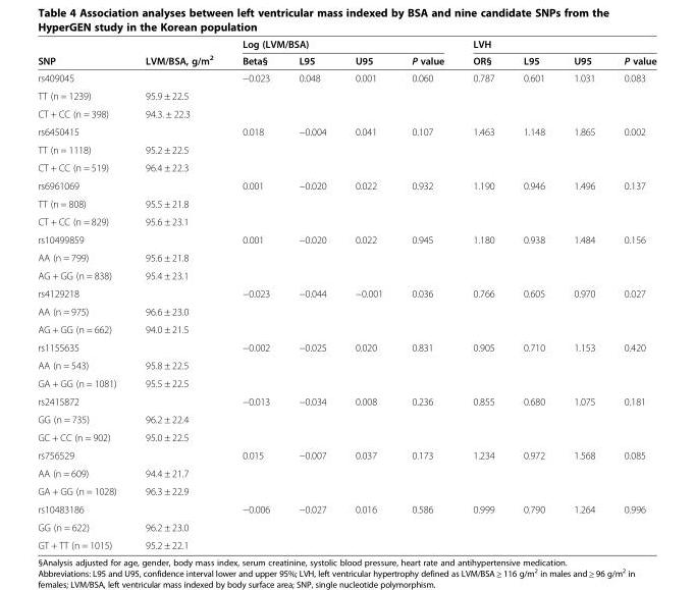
<table><thead><tr><td rowspan="2">SNP</td><td rowspan="2">LVM/BSA, g/m<sup>2</sup></td><td colspan="4">Log (LVM/BSA)</td><td colspan="4">LVH</td></tr><tr><td>Beta§</td><td>L95</td><td>U95</td><td>P value</td><td>OR§</td><td>L95</td><td>U95</td><td>P value</td></tr></thead><tbody><tr><td>rs409045</td><td></td><td>−0.023</td><td>0.048</td><td>0.001</td><td>0.060</td><td>0.787</td><td>0.601</td><td>1.031</td><td>0.083</td></tr><tr><td>TT (n = 1239)</td><td>95.9 ± 22.5</td><td></td><td></td><td></td><td></td><td></td><td></td><td></td><td></td></tr><tr><td>CT + CC (n = 398)</td><td>94.3. ± 22.3</td><td></td><td></td><td></td><td></td><td></td><td></td><td></td><td></td></tr><tr><td>rs6450415</td><td></td><td>0.018</td><td>−0.004</td><td>0.041</td><td>0.107</td><td>1.463</td><td>1.148</td><td>1.865</td><td>0.002</td></tr><tr><td>TT (n = 1118)</td><td>95.2 ± 22.5</td><td></td><td></td><td></td><td></td><td></td><td></td><td></td><td></td></tr><tr><td>CT + CC (n = 519)</td><td>96.4 ± 22.3</td><td></td><td></td><td></td><td></td><td></td><td></td><td></td><td></td></tr><tr><td>rs6961069</td><td></td><td>0.001</td><td>−0.020</td><td>0.022</td><td>0.932</td><td>1.190</td><td>0.946</td><td>1.496</td><td>0.137</td></tr><tr><td>TT (n = 808)</td><td>95.5 ± 21.8</td><td></td><td></td><td></td><td></td><td></td><td></td><td></td><td></td></tr><tr><td>CT + CC (n = 829)</td><td>95.6 ± 23.1</td><td></td><td></td><td></td><td></td><td></td><td></td><td></td><td></td></tr><tr><td>rs10499859</td><td></td><td>0.001</td><td>−0.020</td><td>0.022</td><td>0.945</td><td>1.180</td><td>0.938</td><td>1.484</td><td>0.156</td></tr><tr><td>AA (n = 799)</td><td>95.6 ± 21.8</td><td></td><td></td><td></td><td></td><td></td><td></td><td></td><td></td></tr><tr><td>AG + GG (n = 838)</td><td>95.4 ± 23.1</td><td></td><td></td><td></td><td></td><td></td><td></td><td></td><td></td></tr><tr><td>rs4129218</td><td></td><td>−0.023</td><td>−0.044</td><td>−0.001</td><td>0.036</td><td>0.766</td><td>0.605</td><td>0.970</td><td>0.027</td></tr><tr><td>AA (n = 975)</td><td>96.6 ± 23.0</td><td></td><td></td><td></td><td></td><td></td><td></td><td></td><td></td></tr><tr><td>AG + GG (n = 662)</td><td>94.0 ± 21.5</td><td></td><td></td><td></td><td></td><td></td><td></td><td></td><td></td></tr><tr><td>rs1155635</td><td></td><td>−0.002</td><td>−0.025</td><td>0.020</td><td>0.831</td><td>0.905</td><td>0.710</td><td>1.153</td><td>0.420</td></tr><tr><td>AA (n = 543)</td><td>95.8 ± 22.5</td><td></td><td></td><td></td><td></td><td></td><td></td><td></td><td></td></tr><tr><td>GA + GG (n = 1081)</td><td>95.5 ± 22.5</td><td></td><td></td><td></td><td></td><td></td><td></td><td></td><td></td></tr><tr><td>rs2415872</td><td></td><td>−0.013</td><td>−0.034</td><td>0.008</td><td>0.236</td><td>0.855</td><td>0.680</td><td>1.075</td><td>0.181</td></tr><tr><td>GG (n = 735)</td><td>96.2 ± 22.4</td><td></td><td></td><td></td><td></td><td></td><td></td><td></td><td></td></tr><tr><td>GC + CC (n = 902)</td><td>95.0 ± 22.5</td><td></td><td></td><td></td><td></td><td></td><td></td><td></td><td></td></tr><tr><td>rs756529</td><td></td><td>0.015</td><td>−0.007</td><td>0.037</td><td>0.173</td><td>1.234</td><td>0.972</td><td>1.568</td><td>0.085</td></tr><tr><td>AA (n = 609)</td><td>94.4 ± 21.7</td><td></td><td></td><td></td><td></td><td></td><td></td><td></td><td></td></tr><tr><td>GA + GG (n = 1028)</td><td>96.3 ± 22.9</td><td></td><td></td><td></td><td></td><td></td><td></td><td></td><td></td></tr><tr><td>rs10483186</td><td></td><td>−0.006</td><td>−0.027</td><td>0.016</td><td>0.586</td><td>0.999</td><td>0.790</td><td>1.264</td><td>0.996</td></tr><tr><td>GG (n = 622)</td><td>96.2 ± 23.0</td><td></td><td></td><td></td><td></td><td></td><td></td><td></td><td></td></tr><tr><td>GT + TT (n = 1015)</td><td>95.2 ± 22.1</td><td></td><td></td><td></td><td></td><td></td><td></td><td></td><td></td></tr></tbody></table>